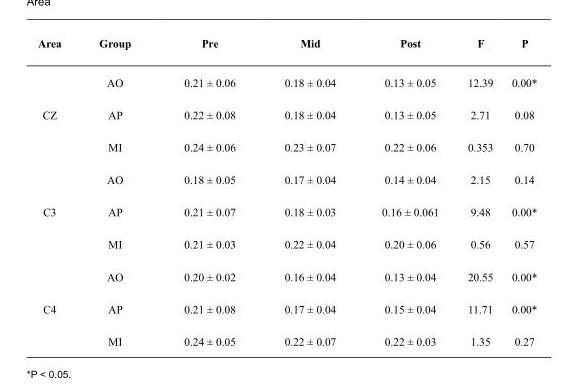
<table><thead><tr><td>Area</td><td>Group</td><td>Pre</td><td>Mid</td><td>Post</td><td>F</td><td>P</td></tr></thead><tbody><tr><td rowspan="3">CZ</td><td>AO</td><td>0.21 ± 0.06</td><td>0.18 ± 0.04</td><td>0.13 ± 0.05</td><td>12.39</td><td>0.00*</td></tr><tr><td>AP</td><td>0.22 ± 0.08</td><td>0.18 ± 0.04</td><td>0.13 ± 0.05</td><td>2.71</td><td>0.08</td></tr><tr><td>MI</td><td>0.24 ± 0.06</td><td>0.23 ± 0.07</td><td>0.22 ± 0.06</td><td>0.353</td><td>0.70</td></tr><tr><td rowspan="3">C3</td><td>AO</td><td>0.18 ± 0.05</td><td>0.17 ± 0.04</td><td>0.14 ± 0.04</td><td>2.15</td><td>0.14</td></tr><tr><td>AP</td><td>0.21 ± 0.07</td><td>0.18 ± 0.03</td><td>0.16 ± 0.061</td><td>9.48</td><td>0.00*</td></tr><tr><td>MI</td><td>0.21 ± 0.03</td><td>0.22 ± 0.04</td><td>0.20 ± 0.06</td><td>0.56</td><td>0.57</td></tr><tr><td rowspan="3">C4</td><td>AO</td><td>0.20 ± 0.02</td><td>0.16 ± 0.04</td><td>0.13 ± 0.04</td><td>20.55</td><td>0.00*</td></tr><tr><td>AP</td><td>0.21 ± 0.08</td><td>0.17 ± 0.04</td><td>0.15 ± 0.04</td><td>11.71</td><td>0.00*</td></tr><tr><td>MI</td><td>0.24 ± 0.05</td><td>0.22 ± 0.07</td><td>0.22 ± 0.03</td><td>1.35</td><td>0.27</td></tr></tbody></table>